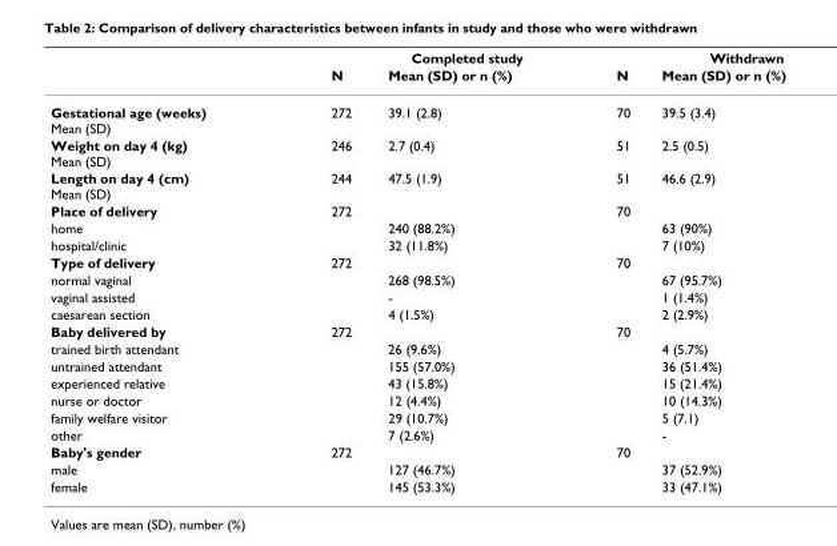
<table><thead><tr><td rowspan="2"></td><td colspan="2">Completed study</td><td colspan="2">Withdrawn</td></tr><tr><td>N</td><td>Mean (SD) or n (%)</td><td>N</td><td>Mean (SD) or n (%)</td></tr></thead><tbody><tr><td>Gestational age (weeks) Mean (SD)</td><td>272</td><td>39.1 (2.8)</td><td>70</td><td>39.5 (3.4)</td></tr><tr><td>Weight on day 4 (kg) Mean (SD)</td><td>246</td><td>2.7 (0.4)</td><td>51</td><td>2.5 (0.5)</td></tr><tr><td>Length on day 4 (cm) Mean (SD)</td><td>244</td><td>47.5 (1.9)</td><td>51</td><td>46.6 (2.9)</td></tr><tr><td>Place of delivery</td><td>272</td><td></td><td>70</td><td></td></tr><tr><td>home</td><td></td><td>240 (88.2%)</td><td></td><td>63 (90%)</td></tr><tr><td>hospital/clinic</td><td></td><td>32 (11.8%)</td><td></td><td>7 (10%)</td></tr><tr><td>Type of delivery</td><td>272</td><td></td><td>70</td><td></td></tr><tr><td>normal vaginal</td><td></td><td>268 (98.5%)</td><td></td><td>67 (95.7%)</td></tr><tr><td>vaginal assisted</td><td></td><td>-</td><td></td><td>1 (1.4%)</td></tr><tr><td>caesarean section</td><td></td><td>4 (1.5%)</td><td></td><td>2 (2.9%)</td></tr><tr><td>Baby delivered by</td><td>272</td><td></td><td>70</td><td></td></tr><tr><td>trained birth attendant</td><td></td><td>26 (9.6%)</td><td></td><td>4 (5.7%)</td></tr><tr><td>untrained attendant</td><td></td><td>155 (57.0%)</td><td></td><td>36 (51.4%)</td></tr><tr><td>experienced relative</td><td></td><td>43 (15.8%)</td><td></td><td>15 (21.4%)</td></tr><tr><td>nurse or doctor</td><td></td><td>12 (4.4%)</td><td></td><td>10 (14.3%)</td></tr><tr><td>family welfare visitor</td><td></td><td>29 (10.7%)</td><td></td><td>5 (7.1)</td></tr><tr><td>other</td><td></td><td>7 (2.6%)</td><td></td><td>-</td></tr><tr><td>Baby&#x27;s gender</td><td>272</td><td></td><td>70</td><td></td></tr><tr><td>male</td><td></td><td>127 (46.7%)</td><td></td><td>37 (52.9%)</td></tr><tr><td>female</td><td></td><td>145 (53.3%)</td><td></td><td>33 (47.1%)</td></tr></tbody></table>